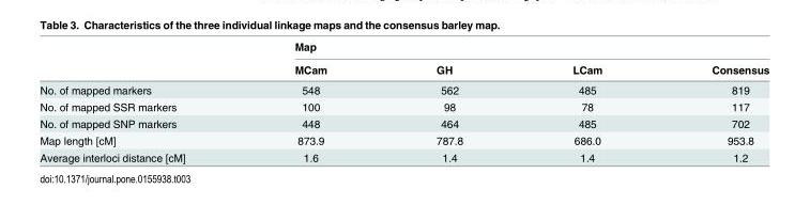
<table><thead><tr><td rowspan="2"></td><td colspan="4">Map</td></tr><tr><td>MCam</td><td>GH</td><td>LCam</td><td>Consensus</td></tr></thead><tbody><tr><td>No. of mapped markers</td><td>548</td><td>562</td><td>485</td><td>819</td></tr><tr><td>No. of mapped SSR markers</td><td>100</td><td>98</td><td>78</td><td>117</td></tr><tr><td>No. of mapped SNP markers</td><td>448</td><td>464</td><td>485</td><td>702</td></tr><tr><td>Map length [cM]</td><td>873.9</td><td>787.8</td><td>686.0</td><td>953.8</td></tr><tr><td>Average interloci distance [cM]</td><td>1.6</td><td>1.4</td><td>1.4</td><td>1.2</td></tr></tbody></table>